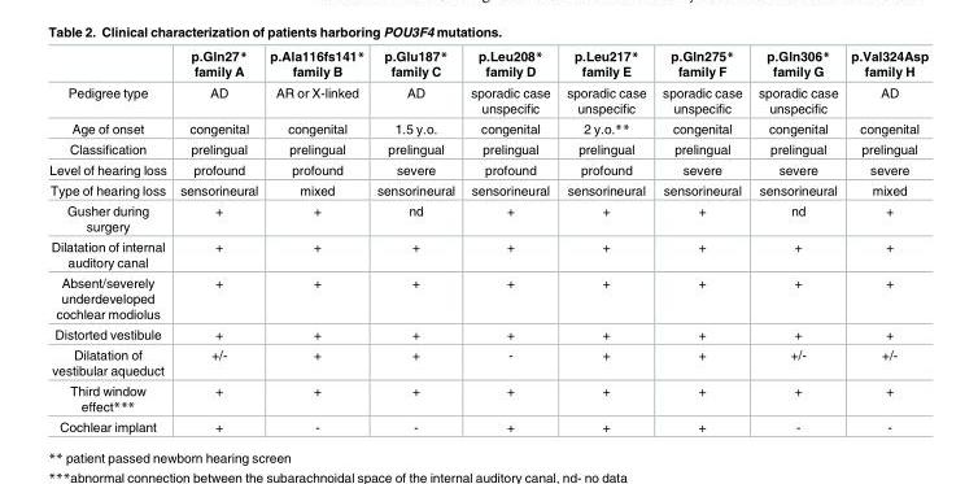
<table><thead><tr><td></td><td>p.Gln27* family A</td><td>p.Ala116fs141* family B</td><td>p.Glu187* family C</td><td>p.Leu208* family D</td><td>p.Leu217* family E</td><td>p.Gln275* family F</td><td>p.Gln306* family G</td><td>p.Val324Asp family H</td></tr></thead><tbody><tr><td>Pedigree type</td><td>AD</td><td>AR or X-linked</td><td>AD</td><td>sporadic case unspecific</td><td>sporadic case unspecific</td><td>sporadic case unspecific</td><td>sporadic case unspecific</td><td>AD</td></tr><tr><td>Age of onset</td><td>congenital</td><td>congenital</td><td>1.5 y.o.</td><td>congenital</td><td>2 y.o.**</td><td>congenital</td><td>congenital</td><td>congenital</td></tr><tr><td>Classification</td><td>prelingual</td><td>prelingual</td><td>prelingual</td><td>prelingual</td><td>prelingual</td><td>prelingual</td><td>prelingual</td><td>prelingual</td></tr><tr><td>Level of hearing loss</td><td>profound</td><td>profound</td><td>severe</td><td>profound</td><td>profound</td><td>severe</td><td>severe</td><td>severe</td></tr><tr><td>Type of hearing loss</td><td>sensorineural</td><td>mixed</td><td>sensorineural</td><td>sensorineural</td><td>sensorineural</td><td>sensorineural</td><td>sensorineural</td><td>mixed</td></tr><tr><td>Gusher during surgery</td><td>+</td><td>+</td><td>nd</td><td>+</td><td>+</td><td>+</td><td>nd</td><td>+</td></tr><tr><td>Dilatation of internal auditory canal</td><td>+</td><td>+</td><td>+</td><td>+</td><td>+</td><td>+</td><td>+</td><td>+</td></tr><tr><td>Absent/severely underdeveloped cochlear modiolus</td><td>+</td><td>+</td><td>+</td><td>+</td><td>+</td><td>+</td><td>+</td><td>+</td></tr><tr><td>Distorted vestibule</td><td>+</td><td>+</td><td>+</td><td>+</td><td>+</td><td>+</td><td>+</td><td>+</td></tr><tr><td>Dilatation of vestibular aqueduct</td><td>+/-</td><td>+</td><td>+</td><td>-</td><td>+</td><td>+</td><td>+/-</td><td>+/-</td></tr><tr><td>Third window effect***</td><td>+</td><td>+</td><td>+</td><td>+</td><td>+</td><td>+</td><td>+</td><td>+</td></tr><tr><td>Cochlear implant</td><td>+</td><td>-</td><td>-</td><td>+</td><td>+</td><td>+</td><td>-</td><td>-</td></tr></tbody></table>